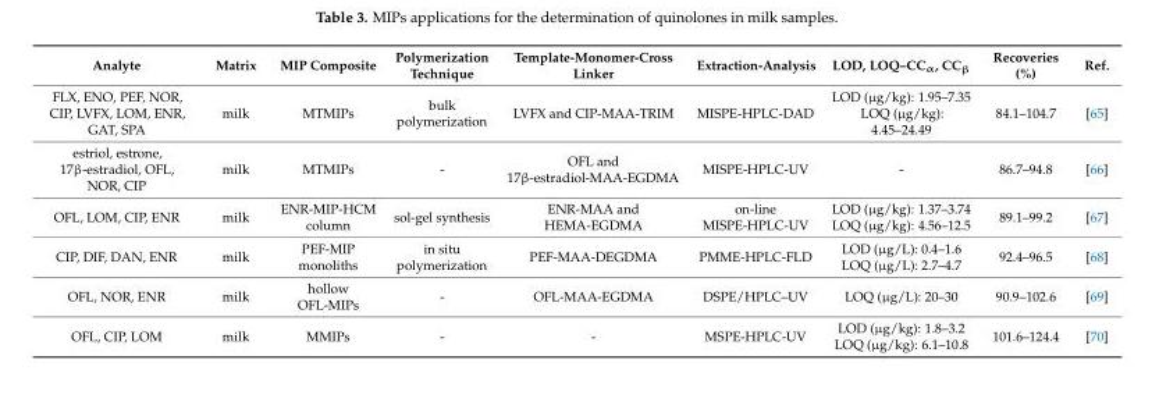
<table><thead><tr><td>Analyte</td><td>Matrix</td><td>MIP Composite</td><td>Polymerization Technique</td><td>Template-Monomer-Cross Linker</td><td>Extraction-Analysis</td><td>LOD, LOQ–CC<sub>α</sub>, CC<sub>β</sub></td><td>Recoveries (%)</td><td>Ref.</td></tr></thead><tbody><tr><td>FLX, ENO, PEF, NOR, CIP, LVFX, LOM, ENR, GAT, SPA</td><td>milk</td><td>MTMIPs</td><td>bulk polymerization</td><td>LVFX and CIP-MAA-TRIM</td><td>MISPE-HPLC-DAD</td><td>LOD (µg/kg): 1.95–7.35 LOQ (µg/kg): 4.45–24.49</td><td>84.1–104.7</td><td>[65]</td></tr><tr><td>estriol, estrone, 17β-estradiol, OFL, NOR, CIP</td><td>milk</td><td>MTMIPs</td><td>-</td><td>OFL and 17β-estradiol-MAA-EGDMA</td><td>MISPE-HPLC-UV</td><td>-</td><td>86.7–94.8</td><td>[66]</td></tr><tr><td>OFL, LOM, CIP, ENR</td><td>milk</td><td>ENR-MIP-HCM column</td><td>sol-gel synthesis</td><td>ENR-MAA and HEMA-EGDMA</td><td>on-line MISPE-HPLC-UV</td><td>LOD (µg/kg): 1.37–3.74 LOQ (µg/kg): 4.56–12.5</td><td>89.1–99.2</td><td>[67]</td></tr><tr><td>CIP, DIF, DAN, ENR</td><td>milk</td><td>PEF-MIP monoliths</td><td>in situ polymerization</td><td>PEF-MAA-DEGDMA</td><td>PMME-HPLC-FLD</td><td>LOD (µg/L): 0.4–1.6 LOQ (µg/L): 2.7–4.7</td><td>92.4–96.5</td><td>[68]</td></tr><tr><td>OFL, NOR, ENR</td><td>milk</td><td>hollow OFL-MIPs</td><td>-</td><td>OFL-MAA-EGDMA</td><td>DSPE/HPLC–UV</td><td>LOQ (µg/L): 20–30</td><td>90.9–102.6</td><td>[69]</td></tr><tr><td>OFL, CIP, LOM</td><td>milk</td><td>MMIPs</td><td>-</td><td>-</td><td>MSPE-HPLC-UV</td><td>LOD (µg/kg): 1.8–3.2 LOQ (µg/kg): 6.1–10.8</td><td>101.6–124.4</td><td>[70]</td></tr></tbody></table>